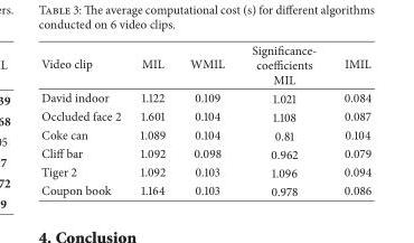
<table><thead><tr><td>Video clip</td><td>MIL</td><td>WMIL</td><td>Significance- coefficients MIL</td><td>IMIL</td></tr></thead><tbody><tr><td>David indoor</td><td>1.122</td><td>0.109</td><td>1.021</td><td>0.084</td></tr><tr><td>Occluded face 2</td><td>1.601</td><td>0.104</td><td>1.108</td><td>0.087</td></tr><tr><td>Coke can</td><td>1.089</td><td>0.104</td><td>0.81</td><td>0.104</td></tr><tr><td>Cliff bar</td><td>1.092</td><td>0.098</td><td>0.962</td><td>0.079</td></tr><tr><td>Tiger 2</td><td>1.092</td><td>0.103</td><td>1.096</td><td>0.094</td></tr><tr><td>Coupon book</td><td>1.164</td><td>0.103</td><td>0.978</td><td>0.086</td></tr></tbody></table>